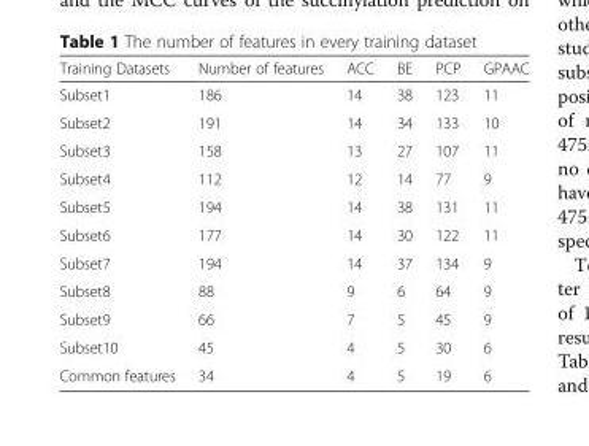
<table><thead><tr><td>Training Datasets</td><td>Number of features</td><td>ACC</td><td>BE</td><td>PCP</td><td>GPAAC</td></tr></thead><tbody><tr><td>Subset1</td><td>186</td><td>14</td><td>38</td><td>123</td><td>11</td></tr><tr><td>Subset2</td><td>191</td><td>14</td><td>34</td><td>133</td><td>10</td></tr><tr><td>Subset3</td><td>158</td><td>13</td><td>27</td><td>107</td><td>11</td></tr><tr><td>Subset4</td><td>112</td><td>12</td><td>14</td><td>77</td><td>9</td></tr><tr><td>Subset5</td><td>194</td><td>14</td><td>38</td><td>131</td><td>11</td></tr><tr><td>Subset6</td><td>177</td><td>14</td><td>30</td><td>122</td><td>11</td></tr><tr><td>Subset7</td><td>194</td><td>14</td><td>37</td><td>134</td><td>9</td></tr><tr><td>Subset8</td><td>88</td><td>9</td><td>6</td><td>64</td><td>9</td></tr><tr><td>Subset9</td><td>66</td><td>7</td><td>5</td><td>45</td><td>9</td></tr><tr><td>Subset10</td><td>45</td><td>4</td><td>5</td><td>30</td><td>6</td></tr><tr><td>Common features</td><td>34</td><td>4</td><td>5</td><td>19</td><td>6</td></tr></tbody></table>